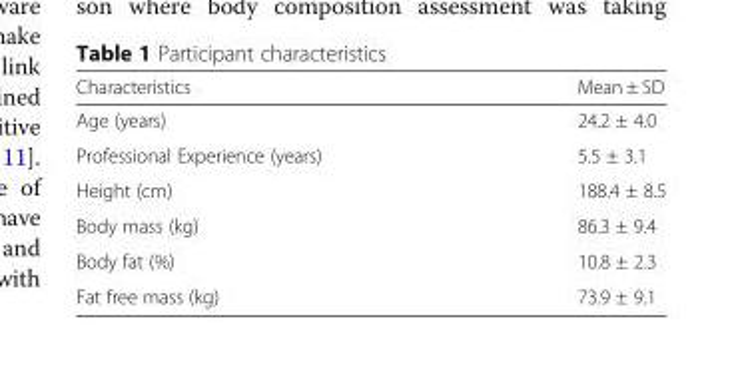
<table><thead><tr><td>Characteristics</td><td>Mean ± SD</td></tr></thead><tbody><tr><td>Age (years)</td><td>24.2 ± 4.0</td></tr><tr><td>Professional Experience (years)</td><td>5.5 ± 3.1</td></tr><tr><td>Height (cm)</td><td>188.4 ± 8.5</td></tr><tr><td>Body mass (kg)</td><td>86.3 ± 9.4</td></tr><tr><td>Body fat (%)</td><td>10.8 ± 2.3</td></tr><tr><td>Fat free mass (kg)</td><td>73.9 ± 9.1</td></tr></tbody></table>